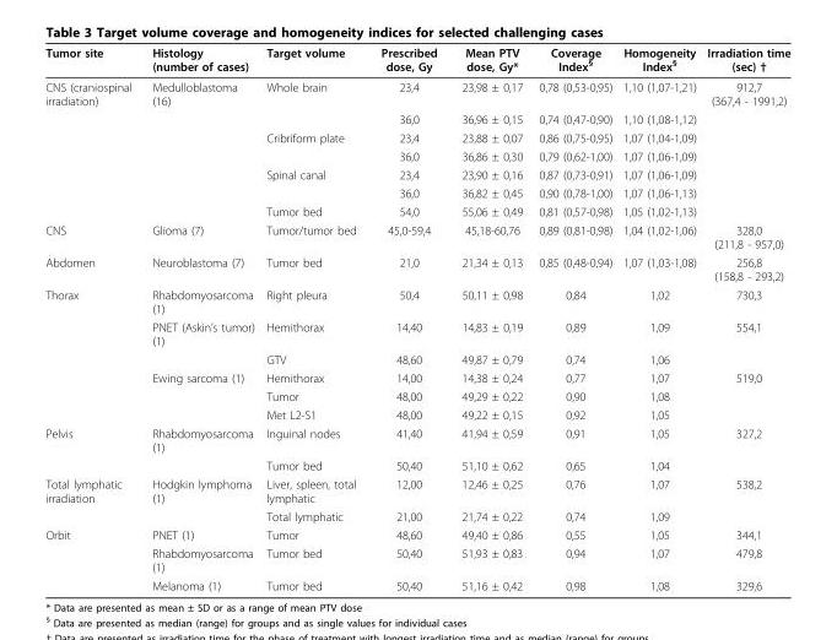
<table><thead><tr><td>Tumor site</td><td>Histology (number of cases)</td><td>Target volume</td><td>Prescribed dose, Gy</td><td>Mean PTV dose, Gy*</td><td>Coverage Index<sup>§</sup></td><td>Homogeneity Index<sup>§</sup></td><td>Irradiation time (sec) †</td></tr></thead><tbody><tr><td rowspan="7">CNS (craniospinal irradiation)</td><td>Medulloblastoma (16)</td><td>Whole brain</td><td>23,4</td><td>23,98 ± 0,17</td><td>0,78 (0,53-0,95)</td><td>1,10 (1,07-1,21)</td><td>912,7 (367,4 - 1991,2)</td></tr><tr><td></td><td></td><td>36,0</td><td>36,96 ± 0,15</td><td>0,74 (0,47-0,90)</td><td>1,10 (1,08-1,12)</td><td></td></tr><tr><td></td><td>Cribriform plate</td><td>23,4</td><td>23,88 ± 0,07</td><td>0,86 (0,75-0,95)</td><td>1,07 (1,04-1,09)</td><td></td></tr><tr><td></td><td></td><td>36,0</td><td>36,86 ± 0,30</td><td>0,79 (0,62-1,00)</td><td>1,07 (1,06-1,09)</td><td></td></tr><tr><td></td><td>Spinal canal</td><td>23,4</td><td>23,90 ± 0,16</td><td>0,87 (0,73-0,91)</td><td>1,07 (1,06-1,09)</td><td></td></tr><tr><td></td><td></td><td>36,0</td><td>36,82 ± 0,45</td><td>0,90 (0,78-1,00)</td><td>1,07 (1,06-1,13)</td><td></td></tr><tr><td></td><td>Tumor bed</td><td>54,0</td><td>55,06 ± 0,49</td><td>0,81 (0,57-0,98)</td><td>1,05 (1,02-1,13)</td><td></td></tr><tr><td>CNS</td><td>Glioma (7)</td><td>Tumor/tumor bed</td><td>45,0-59,4</td><td>45,18-60,76</td><td>0,89 (0,81-0,98)</td><td>1,04 (1,02-1,06)</td><td>328,0 (211,8 - 957,0)</td></tr><tr><td>Abdomen</td><td>Neuroblastoma (7)</td><td>Tumor bed</td><td>21,0</td><td>21,34 ± 0,13</td><td>0,85 (0,48-0,94)</td><td>1,07 (1,03-1,08)</td><td>256,8 (158,8 - 293,2)</td></tr><tr><td rowspan="6">Thorax</td><td>Rhabdomyosarcoma (1)</td><td>Right pleura</td><td>50,4</td><td>50,11 ± 0,98</td><td>0,84</td><td>1,02</td><td>730,3</td></tr><tr><td>PNET (Askin’s tumor) (1)</td><td>Hemithorax</td><td>14,40</td><td>14,83 ± 0,19</td><td>0,89</td><td>1,09</td><td>554,1</td></tr><tr><td></td><td>GTV</td><td>48,60</td><td>49,87 ± 0,79</td><td>0,74</td><td>1,06</td><td></td></tr><tr><td>Ewing sarcoma (1)</td><td>Hemithorax</td><td>14,00</td><td>14,38 ± 0,24</td><td>0,77</td><td>1,07</td><td>519,0</td></tr><tr><td></td><td>Tumor</td><td>48,00</td><td>49,29 ± 0,22</td><td>0,90</td><td>1,08</td><td></td></tr><tr><td></td><td>Met L2-S1</td><td>48,00</td><td>49,22 ± 0,15</td><td>0,92</td><td>1,05</td><td></td></tr><tr><td rowspan="2">Pelvis</td><td>Rhabdomyosarcoma (1)</td><td>Inguinal nodes</td><td>41,40</td><td>41,94 ± 0,59</td><td>0,91</td><td>1,05</td><td>327,2</td></tr><tr><td></td><td>Tumor bed</td><td>50,40</td><td>51,10 ± 0,62</td><td>0,65</td><td>1,04</td><td></td></tr><tr><td rowspan="2">Total lymphatic irradiation</td><td>Hodgkin lymphoma (1)</td><td>Liver, spleen, total lymphatic</td><td>12,00</td><td>12,46 ± 0,25</td><td>0,76</td><td>1,07</td><td>538,2</td></tr><tr><td></td><td>Total lymphatic</td><td>21,00</td><td>21,74 ± 0,22</td><td>0,74</td><td>1,09</td><td></td></tr><tr><td rowspan="3">Orbit</td><td>PNET (1)</td><td>Tumor</td><td>48,60</td><td>49,40 ± 0,86</td><td>0,55</td><td>1,05</td><td>344,1</td></tr><tr><td>Rhabdomyosarcoma (1)</td><td>Tumor bed</td><td>50,40</td><td>51,93 ± 0,83</td><td>0,94</td><td>1,07</td><td>479,8</td></tr><tr><td>Melanoma (1)</td><td>Tumor bed</td><td>50,40</td><td>51,16 ± 0,42</td><td>0,98</td><td>1,08</td><td>329,6</td></tr></tbody></table>